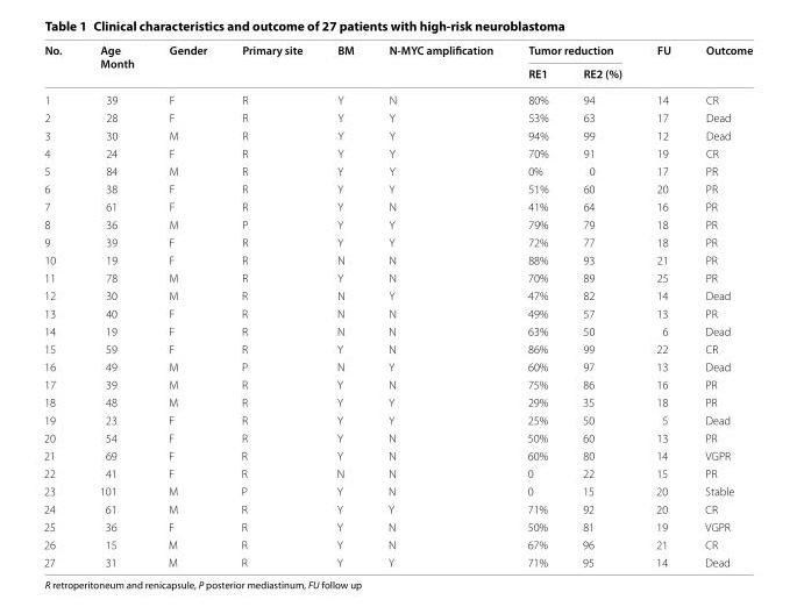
<table><thead><tr><td rowspan="2">No.</td><td rowspan="2">Age Month</td><td rowspan="2">Gender</td><td rowspan="2">Primary site</td><td rowspan="2">BM</td><td rowspan="2">N‑MYC amplification</td><td colspan="2">Tumor reduction</td><td rowspan="2">FU</td><td rowspan="2">Outcome</td></tr><tr><td>RE1</td><td>RE2 (%)</td></tr></thead><tbody><tr><td>1</td><td>39</td><td>F</td><td>R</td><td>Y</td><td>N</td><td>80%</td><td>94</td><td>14</td><td>CR</td></tr><tr><td>2</td><td>28</td><td>F</td><td>R</td><td>Y</td><td>Y</td><td>53%</td><td>63</td><td>17</td><td>Dead</td></tr><tr><td>3</td><td>30</td><td>M</td><td>R</td><td>Y</td><td>Y</td><td>94%</td><td>99</td><td>12</td><td>Dead</td></tr><tr><td>4</td><td>24</td><td>F</td><td>R</td><td>Y</td><td>Y</td><td>70%</td><td>91</td><td>19</td><td>CR</td></tr><tr><td>5</td><td>84</td><td>M</td><td>R</td><td>Y</td><td>Y</td><td>0%</td><td>0</td><td>17</td><td>PR</td></tr><tr><td>6</td><td>38</td><td>F</td><td>R</td><td>Y</td><td>Y</td><td>51%</td><td>60</td><td>20</td><td>PR</td></tr><tr><td>7</td><td>61</td><td>F</td><td>R</td><td>Y</td><td>N</td><td>41%</td><td>64</td><td>16</td><td>PR</td></tr><tr><td>8</td><td>36</td><td>M</td><td>P</td><td>Y</td><td>Y</td><td>79%</td><td>79</td><td>18</td><td>PR</td></tr><tr><td>9</td><td>39</td><td>F</td><td>R</td><td>Y</td><td>Y</td><td>72%</td><td>77</td><td>18</td><td>PR</td></tr><tr><td>10</td><td>19</td><td>F</td><td>R</td><td>N</td><td>N</td><td>88%</td><td>93</td><td>21</td><td>PR</td></tr><tr><td>11</td><td>78</td><td>M</td><td>R</td><td>Y</td><td>N</td><td>70%</td><td>89</td><td>25</td><td>PR</td></tr><tr><td>12</td><td>30</td><td>M</td><td>R</td><td>N</td><td>Y</td><td>47%</td><td>82</td><td>14</td><td>Dead</td></tr><tr><td>13</td><td>40</td><td>F</td><td>R</td><td>N</td><td>N</td><td>49%</td><td>57</td><td>13</td><td>PR</td></tr><tr><td>14</td><td>19</td><td>F</td><td>R</td><td>N</td><td>N</td><td>63%</td><td>50</td><td>6</td><td>Dead</td></tr><tr><td>15</td><td>59</td><td>F</td><td>R</td><td>Y</td><td>N</td><td>86%</td><td>99</td><td>22</td><td>CR</td></tr><tr><td>16</td><td>49</td><td>M</td><td>P</td><td>N</td><td>Y</td><td>60%</td><td>97</td><td>13</td><td>Dead</td></tr><tr><td>17</td><td>39</td><td>M</td><td>R</td><td>Y</td><td>N</td><td>75%</td><td>86</td><td>16</td><td>PR</td></tr><tr><td>18</td><td>48</td><td>M</td><td>R</td><td>Y</td><td>Y</td><td>29%</td><td>35</td><td>18</td><td>PR</td></tr><tr><td>19</td><td>23</td><td>F</td><td>R</td><td>Y</td><td>Y</td><td>25%</td><td>50</td><td>5</td><td>Dead</td></tr><tr><td>20</td><td>54</td><td>F</td><td>R</td><td>Y</td><td>N</td><td>50%</td><td>60</td><td>13</td><td>PR</td></tr><tr><td>21</td><td>69</td><td>F</td><td>R</td><td>Y</td><td>N</td><td>60%</td><td>80</td><td>14</td><td>VGPR</td></tr><tr><td>22</td><td>41</td><td>F</td><td>R</td><td>N</td><td>N</td><td>0</td><td>22</td><td>15</td><td>PR</td></tr><tr><td>23</td><td>101</td><td>M</td><td>P</td><td>Y</td><td>N</td><td>0</td><td>15</td><td>20</td><td>Stable</td></tr><tr><td>24</td><td>61</td><td>M</td><td>R</td><td>Y</td><td>Y</td><td>71%</td><td>92</td><td>20</td><td>CR</td></tr><tr><td>25</td><td>36</td><td>F</td><td>R</td><td>Y</td><td>N</td><td>50%</td><td>81</td><td>19</td><td>VGPR</td></tr><tr><td>26</td><td>15</td><td>M</td><td>R</td><td>Y</td><td>N</td><td>67%</td><td>96</td><td>21</td><td>CR</td></tr><tr><td>27</td><td>31</td><td>M</td><td>R</td><td>Y</td><td>Y</td><td>71%</td><td>95</td><td>14</td><td>Dead</td></tr></tbody></table>